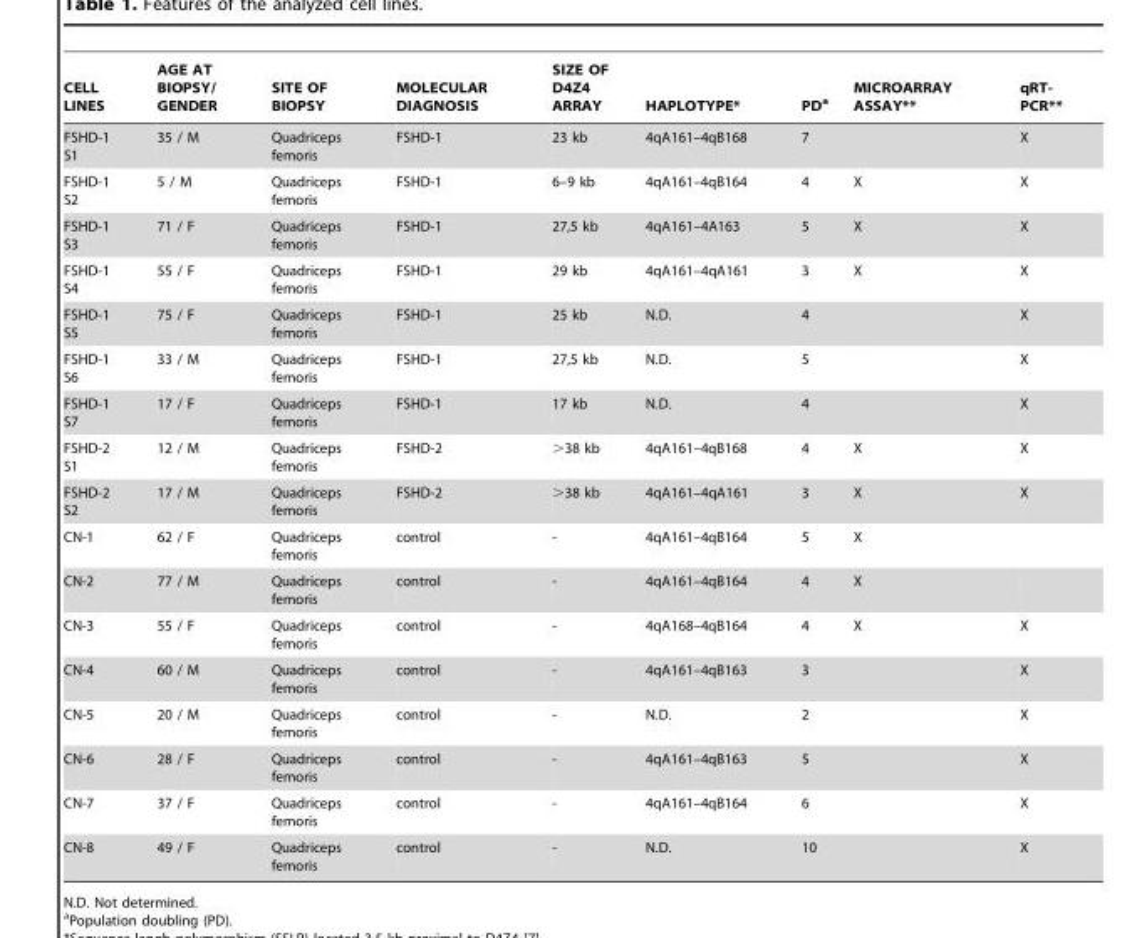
<table><thead><tr><td>CELL LINES</td><td>AGE AT BIOPSY/ GENDER</td><td>SITE OF BIOPSY</td><td>MOLECULAR DIAGNOSIS</td><td>SIZE OF D4Z4 ARRAY</td><td>HAPLOTYPE*</td><td>PD<sup>a</sup></td><td>MICROARRAY ASSAY**</td><td>qRT- PCR**</td></tr></thead><tbody><tr><td>FSHD-1 S1</td><td>35 / M</td><td>Quadriceps femoris</td><td>FSHD-1</td><td>23 kb</td><td>4qA161–4qB168</td><td>7</td><td></td><td>X</td></tr><tr><td>FSHD-1 S2</td><td>5 / M</td><td>Quadriceps femoris</td><td>FSHD-1</td><td>6–9 kb</td><td>4qA161–4qB164</td><td>4</td><td>X</td><td>X</td></tr><tr><td>FSHD-1 S3</td><td>71 / F</td><td>Quadriceps femoris</td><td>FSHD-1</td><td>27,5 kb</td><td>4qA161–4A163</td><td>5</td><td>X</td><td>X</td></tr><tr><td>FSHD-1 S4</td><td>55 / F</td><td>Quadriceps femoris</td><td>FSHD-1</td><td>29 kb</td><td>4qA161–4qA161</td><td>3</td><td>X</td><td>X</td></tr><tr><td>FSHD-1 S5</td><td>75 / F</td><td>Quadriceps femoris</td><td>FSHD-1</td><td>25 kb</td><td>N.D.</td><td>4</td><td></td><td>X</td></tr><tr><td>FSHD-1 S6</td><td>33 / M</td><td>Quadriceps femoris</td><td>FSHD-1</td><td>27,5 kb</td><td>N.D.</td><td>5</td><td></td><td>X</td></tr><tr><td>FSHD-1 S7</td><td>17 / F</td><td>Quadriceps femoris</td><td>FSHD-1</td><td>17 kb</td><td>N.D.</td><td>4</td><td></td><td>X</td></tr><tr><td>FSHD-2 S1</td><td>12 / M</td><td>Quadriceps femoris</td><td>FSHD-2</td><td>&gt;38 kb</td><td>4qA161–4qB168</td><td>4</td><td>X</td><td>X</td></tr><tr><td>FSHD-2 S2</td><td>17 / M</td><td>Quadriceps femoris</td><td>FSHD-2</td><td>&gt;38 kb</td><td>4qA161–4qA161</td><td>3</td><td>X</td><td>X</td></tr><tr><td>CN-1</td><td>62 / F</td><td>Quadriceps femoris</td><td>control</td><td>-</td><td>4qA161–4qB164</td><td>5</td><td>X</td><td></td></tr><tr><td>CN-2</td><td>77 / M</td><td>Quadriceps femoris</td><td>control</td><td>-</td><td>4qA161–4qB164</td><td>4</td><td>X</td><td></td></tr><tr><td>CN-3</td><td>55 / F</td><td>Quadriceps femoris</td><td>control</td><td>-</td><td>4qA168–4qB164</td><td>4</td><td>X</td><td>X</td></tr><tr><td>CN-4</td><td>60 / M</td><td>Quadriceps femoris</td><td>control</td><td>-</td><td>4qA161–4qB163</td><td>3</td><td></td><td>X</td></tr><tr><td>CN-5</td><td>20 / M</td><td>Quadriceps femoris</td><td>control</td><td>-</td><td>N.D.</td><td>2</td><td></td><td>X</td></tr><tr><td>CN-6</td><td>28 / F</td><td>Quadriceps femoris</td><td>control</td><td>-</td><td>4qA161–4qB163</td><td>5</td><td></td><td>X</td></tr><tr><td>CN-7</td><td>37 / F</td><td>Quadriceps femoris</td><td>control</td><td>-</td><td>4qA161–4qB164</td><td>6</td><td></td><td>X</td></tr><tr><td>CN-8</td><td>49 / F</td><td>Quadriceps femoris</td><td>control</td><td>-</td><td>N.D.</td><td>10</td><td></td><td>X</td></tr></tbody></table>